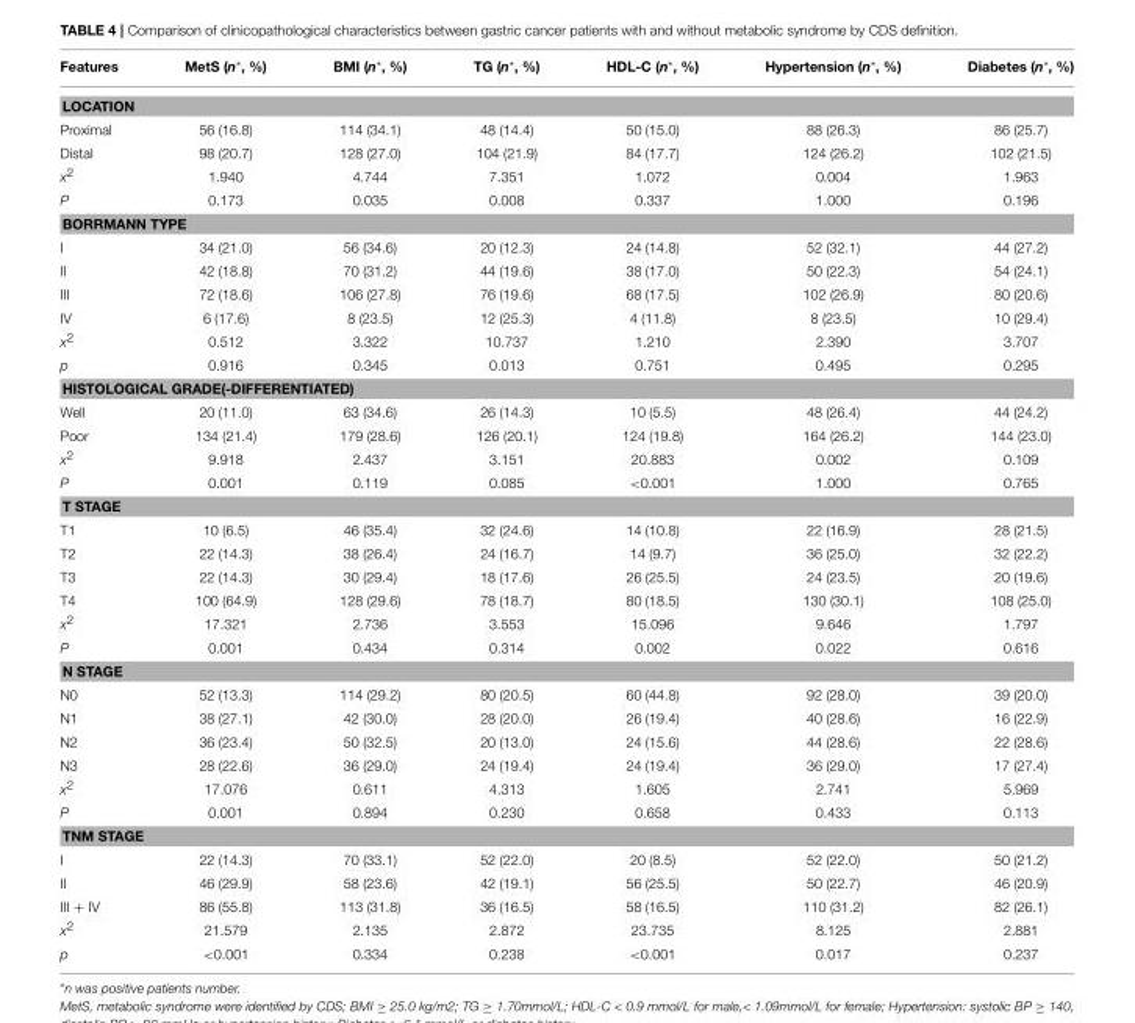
<table><thead><tr><td>Features</td><td>MetS (n*, %)</td><td>BMI (n*, %)</td><td>TG (n*, %)</td><td>HDL-C (n*, %)</td><td>Hypertension (n*, %)</td><td>Diabetes (n*, %)</td></tr></thead><tbody><tr><td colspan="7">LOCATION</td></tr><tr><td>Proximal</td><td>56 (16.8)</td><td>114 (34.1)</td><td>48 (14.4)</td><td>50 (15.0)</td><td>88 (26.3)</td><td>86 (25.7)</td></tr><tr><td>Distal</td><td>98 (20.7)</td><td>128 (27.0)</td><td>104 (21.9)</td><td>84 (17.7)</td><td>124 (26.2)</td><td>102 (21.5)</td></tr><tr><td>x<sup>2</sup></td><td>1.940</td><td>4.744</td><td>7.351</td><td>1.072</td><td>0.004</td><td>1.963</td></tr><tr><td>P</td><td>0.173</td><td>0.035</td><td>0.008</td><td>0.337</td><td>1.000</td><td>0.196</td></tr><tr><td colspan="7">BORRMANN TYPE</td></tr><tr><td>I</td><td>34 (21.0)</td><td>56 (34.6)</td><td>20 (12.3)</td><td>24 (14.8)</td><td>52 (32.1)</td><td>44 (27.2)</td></tr><tr><td>II</td><td>42 (18.8)</td><td>70 (31.2)</td><td>44 (19.6)</td><td>38 (17.0)</td><td>50 (22.3)</td><td>54 (24.1)</td></tr><tr><td>III</td><td>72 (18.6)</td><td>106 (27.8)</td><td>76 (19.6)</td><td>68 (17.5)</td><td>102 (26.9)</td><td>80 (20.6)</td></tr><tr><td>IV</td><td>6 (17.6)</td><td>8 (23.5)</td><td>12 (25.3)</td><td>4 (11.8)</td><td>8 (23.5)</td><td>10 (29.4)</td></tr><tr><td>x<sup>2</sup></td><td>0.512</td><td>3.322</td><td>10.737</td><td>1.210</td><td>2.390</td><td>3.707</td></tr><tr><td>p</td><td>0.916</td><td>0.345</td><td>0.013</td><td>0.751</td><td>0.495</td><td>0.295</td></tr><tr><td colspan="7">HISTOLOGICAL GRADE(-DIFFERENTIATED)</td></tr><tr><td>Well</td><td>20 (11.0)</td><td>63 (34.6)</td><td>26 (14.3)</td><td>10 (5.5)</td><td>48 (26.4)</td><td>44 (24.2)</td></tr><tr><td>Poor</td><td>134 (21.4)</td><td>179 (28.6)</td><td>126 (20.1)</td><td>124 (19.8)</td><td>164 (26.2)</td><td>144 (23.0)</td></tr><tr><td>x<sup>2</sup></td><td>9.918</td><td>2.437</td><td>3.151</td><td>20.883</td><td>0.002</td><td>0.109</td></tr><tr><td>P</td><td>0.001</td><td>0.119</td><td>0.085</td><td>&lt;0.001</td><td>1.000</td><td>0.765</td></tr><tr><td colspan="7">T STAGE</td></tr><tr><td>T1</td><td>10 (6.5)</td><td>46 (35.4)</td><td>32 (24.6)</td><td>14 (10.8)</td><td>22 (16.9)</td><td>28 (21.5)</td></tr><tr><td>T2</td><td>22 (14.3)</td><td>38 (26.4)</td><td>24 (16.7)</td><td>14 (9.7)</td><td>36 (25.0)</td><td>32 (22.2)</td></tr><tr><td>T3</td><td>22 (14.3)</td><td>30 (29.4)</td><td>18 (17.6)</td><td>26 (25.5)</td><td>24 (23.5)</td><td>20 (19.6)</td></tr><tr><td>T4</td><td>100 (64.9)</td><td>128 (29.6)</td><td>78 (18.7)</td><td>80 (18.5)</td><td>130 (30.1)</td><td>108 (25.0)</td></tr><tr><td>x<sup>2</sup></td><td>17.321</td><td>2.736</td><td>3.553</td><td>15.096</td><td>9.646</td><td>1.797</td></tr><tr><td>P</td><td>0.001</td><td>0.434</td><td>0.314</td><td>0.002</td><td>0.022</td><td>0.616</td></tr><tr><td colspan="7">N STAGE</td></tr><tr><td>N0</td><td>52 (13.3)</td><td>114 (29.2)</td><td>80 (20.5)</td><td>60 (44.8)</td><td>92 (28.0)</td><td>39 (20.0)</td></tr><tr><td>N1</td><td>38 (27.1)</td><td>42 (30.0)</td><td>28 (20.0)</td><td>26 (19.4)</td><td>40 (28.6)</td><td>16 (22.9)</td></tr><tr><td>N2</td><td>36 (23.4)</td><td>50 (32.5)</td><td>20 (13.0)</td><td>24 (15.6)</td><td>44 (28.6)</td><td>22 (28.6)</td></tr><tr><td>N3</td><td>28 (22.6)</td><td>36 (29.0)</td><td>24 (19.4)</td><td>24 (19.4)</td><td>36 (29.0)</td><td>17 (27.4)</td></tr><tr><td>x<sup>2</sup></td><td>17.076</td><td>0.611</td><td>4.313</td><td>1.605</td><td>2.741</td><td>5.969</td></tr><tr><td>P</td><td>0.001</td><td>0.894</td><td>0.230</td><td>0.658</td><td>0.433</td><td>0.113</td></tr><tr><td colspan="7">TNM STAGE</td></tr><tr><td>I</td><td>22 (14.3)</td><td>70 (33.1)</td><td>52 (22.0)</td><td>20 (8.5)</td><td>52 (22.0)</td><td>50 (21.2)</td></tr><tr><td>II</td><td>46 (29.9)</td><td>58 (23.6)</td><td>42 (19.1)</td><td>56 (25.5)</td><td>50 (22.7)</td><td>46 (20.9)</td></tr><tr><td>III + IV</td><td>86 (55.8)</td><td>113 (31.8)</td><td>36 (16.5)</td><td>58 (16.5)</td><td>110 (31.2)</td><td>82 (26.1)</td></tr><tr><td>x<sup>2</sup></td><td>21.579</td><td>2.135</td><td>2.872</td><td>23.735</td><td>8.125</td><td>2.881</td></tr><tr><td>p</td><td>&lt;0.001</td><td>0.334</td><td>0.238</td><td>&lt;0.001</td><td>0.017</td><td>0.237</td></tr></tbody></table>